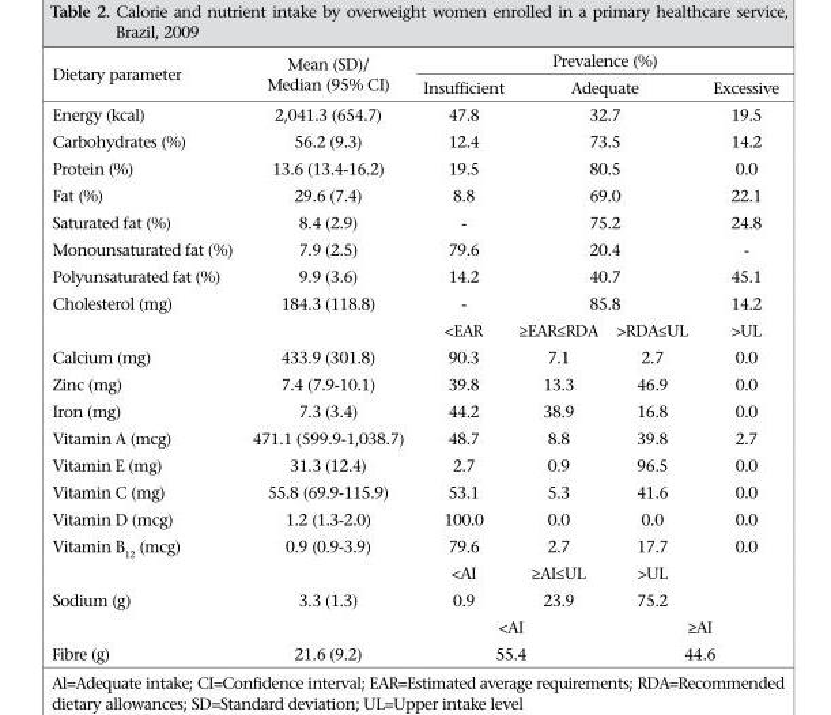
<table><thead><tr><td rowspan="2">Dietary parameter</td><td rowspan="2">Mean (SD)/ Median (95% CI)</td><td colspan="4">Prevalence (%)</td></tr><tr><td>Insufficient</td><td colspan="2">Adequate</td><td>Excessive</td></tr></thead><tbody><tr><td>Energy (kcal)</td><td>2,041.3 (654.7)</td><td>47.8</td><td colspan="2">32.7</td><td>19.5</td></tr><tr><td>Carbohydrates (%)</td><td>56.2 (9.3)</td><td>12.4</td><td colspan="2">73.5</td><td>14.2</td></tr><tr><td>Protein (%)</td><td>13.6 (13.4-16.2)</td><td>19.5</td><td colspan="2">80.5</td><td>0.0</td></tr><tr><td>Fat (%)</td><td>29.6 (7.4)</td><td>8.8</td><td colspan="2">69.0</td><td>22.1</td></tr><tr><td>Saturated fat (%)</td><td>8.4 (2.9)</td><td>-</td><td colspan="2">75.2</td><td>24.8</td></tr><tr><td>Monounsaturated fat (%)</td><td>7.9 (2.5)</td><td>79.6</td><td colspan="2">20.4</td><td>-</td></tr><tr><td>Polyunsaturated fat (%)</td><td>9.9 (3.6)</td><td>14.2</td><td colspan="2">40.7</td><td>45.1</td></tr><tr><td rowspan="2">Cholesterol (mg)</td><td>184.3 (118.8)</td><td>-</td><td colspan="2">85.8</td><td>14.2</td></tr><tr><td></td><td>&lt;EAR</td><td>≥EAR≤RDA</td><td>&gt;RDA≤UL</td><td>&gt;UL</td></tr><tr><td>Calcium (mg)</td><td>433.9 (301.8)</td><td>90.3</td><td>7.1</td><td>2.7</td><td>0.0</td></tr><tr><td>Zinc (mg)</td><td>7.4 (7.9-10.1)</td><td>39.8</td><td>13.3</td><td>46.9</td><td>0.0</td></tr><tr><td>Iron (mg)</td><td>7.3 (3.4)</td><td>44.2</td><td>38.9</td><td>16.8</td><td>0.0</td></tr><tr><td>Vitamin A (mcg)</td><td>471.1 (599.9-1,038.7)</td><td>48.7</td><td>8.8</td><td>39.8</td><td>2.7</td></tr><tr><td>Vitamin E (mg)</td><td>31.3 (12.4)</td><td>2.7</td><td>0.9</td><td>96.5</td><td>0.0</td></tr><tr><td>Vitamin C (mg)</td><td>55.8 (69.9-115.9)</td><td>53.1</td><td>5.3</td><td>41.6</td><td>0.0</td></tr><tr><td>Vitamin D (mcg)</td><td>1.2 (1.3-2.0)</td><td>100.0</td><td>0.0</td><td>0.0</td><td>0.0</td></tr><tr><td rowspan="2">Vitamin B<sub>12</sub> (mcg)</td><td>0.9 (0.9-3.9)</td><td>79.6</td><td>2.7</td><td>17.7</td><td>0.0</td></tr><tr><td></td><td>&lt;AI</td><td>≥AI≤UL</td><td>&gt;UL</td><td></td></tr><tr><td rowspan="2">Sodium (g)</td><td>3.3 (1.3)</td><td>0.9</td><td>23.9</td><td>75.2</td><td></td></tr><tr><td></td><td colspan="2">&lt;AI</td><td colspan="2">≥AI</td></tr><tr><td>Fibre (g)</td><td>21.6 (9.2)</td><td colspan="2">55.4</td><td colspan="2">44.6</td></tr></tbody></table>